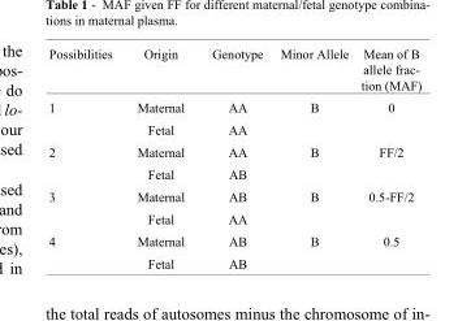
<table><thead><tr><td>Possibilities</td><td>Origin</td><td>Genotype</td><td>Minor Allele</td><td>Mean of B allele frac- tion (MAF)</td></tr></thead><tbody><tr><td rowspan="2">1</td><td>Maternal</td><td>AA</td><td>B</td><td>0</td></tr><tr><td>Fetal</td><td>AA</td><td></td><td></td></tr><tr><td rowspan="2">2</td><td>Maternal</td><td>AA</td><td>B</td><td>FF/2</td></tr><tr><td>Fetal</td><td>AB</td><td></td><td></td></tr><tr><td rowspan="2">3</td><td>Maternal</td><td>AB</td><td>B</td><td>0.5-FF/2</td></tr><tr><td>Fetal</td><td>AA</td><td></td><td></td></tr><tr><td rowspan="2">4</td><td>Maternal</td><td>AB</td><td>B</td><td>0.5</td></tr><tr><td>Fetal</td><td>AB</td><td></td><td></td></tr></tbody></table>